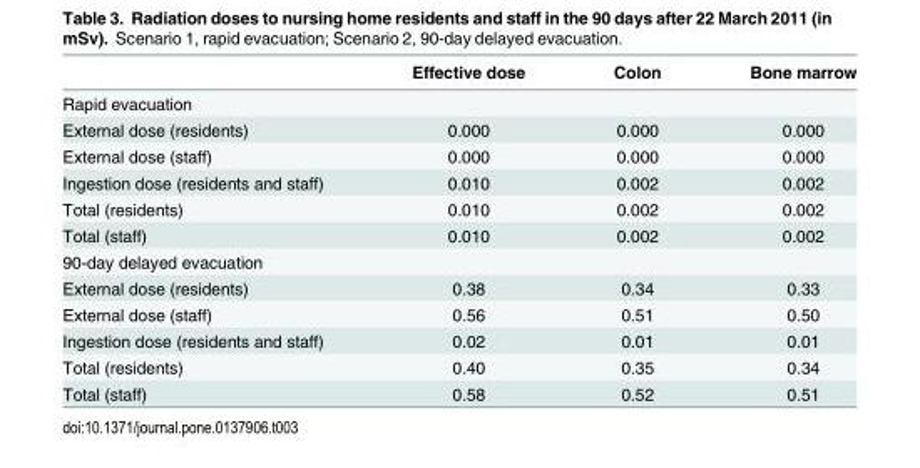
<table><thead><tr><td></td><td>Effective dose</td><td>Colon</td><td>Bone marrow</td></tr></thead><tbody><tr><td colspan="4">Rapid evacuation</td></tr><tr><td>External dose (residents)</td><td>0.000</td><td>0.000</td><td>0.000</td></tr><tr><td>External dose (staff)</td><td>0.000</td><td>0.000</td><td>0.000</td></tr><tr><td>Ingestion dose (residents and staff)</td><td>0.010</td><td>0.002</td><td>0.002</td></tr><tr><td>Total (residents)</td><td>0.010</td><td>0.002</td><td>0.002</td></tr><tr><td>Total (staff)</td><td>0.010</td><td>0.002</td><td>0.002</td></tr><tr><td colspan="4">90-day delayed evacuation</td></tr><tr><td>External dose (residents)</td><td>0.38</td><td>0.34</td><td>0.33</td></tr><tr><td>External dose (staff)</td><td>0.56</td><td>0.51</td><td>0.50</td></tr><tr><td>Ingestion dose (residents and staff)</td><td>0.02</td><td>0.01</td><td>0.01</td></tr><tr><td>Total (residents)</td><td>0.40</td><td>0.35</td><td>0.34</td></tr><tr><td>Total (staff)</td><td>0.58</td><td>0.52</td><td>0.51</td></tr></tbody></table>